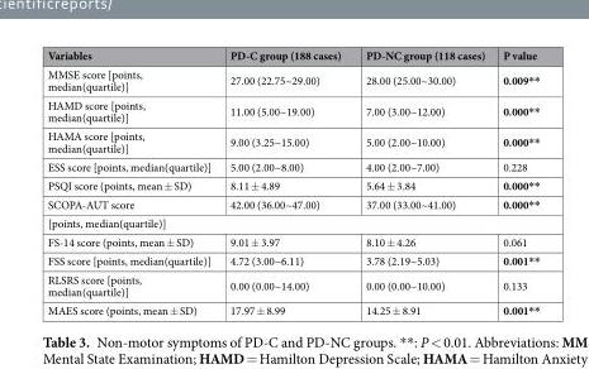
<table><thead><tr><td>Variables</td><td>PD-C group (188 cases)</td><td>PD-NC group (118 cases)</td><td>P value</td></tr></thead><tbody><tr><td>MMSE score [points, median(quartile)]</td><td>27.00 (22.75~29.00)</td><td>28.00 (25.00~30.00)</td><td>0.009**</td></tr><tr><td>HAMD score [points, median(quartile)]</td><td>11.00 (5.00~19.00)</td><td>7.00 (3.00~12.00)</td><td>0.000**</td></tr><tr><td>HAMA score [points, median(quartile)]</td><td>9.00 (3.25~15.00)</td><td>5.00 (2.00~10.00)</td><td>0.000**</td></tr><tr><td>ESS score [points, median(quartile)]</td><td>5.00 (2.00~8.00)</td><td>4.00 (2.00~7.00)</td><td>0.228</td></tr><tr><td>PSQI score (points, mean ± SD)</td><td>8.11 ± 4.89</td><td>5.64 ± 3.84</td><td>0.000**</td></tr><tr><td>SCOPA-AUT score</td><td>42.00 (36.00~47.00)</td><td>37.00 (33.00~41.00)</td><td>0.000**</td></tr><tr><td colspan="4">[points, median(quartile)]</td></tr><tr><td>FS-14 score (points, mean ± SD)</td><td>9.01 ± 3.97</td><td>8.10 ± 4.26</td><td>0.061</td></tr><tr><td>FSS score [points, median(quartile)]</td><td>4.72 (3.00~6.11)</td><td>3.78 (2.19~5.03)</td><td>0.001**</td></tr><tr><td>RLSRS score [points, median(quartile)]</td><td>0.00 (0.00~14.00)</td><td>0.00 (0.00~10.00)</td><td>0.133</td></tr><tr><td>MAES score (points, mean ± SD)</td><td>17.97 ± 8.99</td><td>14.25 ± 8.91</td><td>0.001**</td></tr></tbody></table>